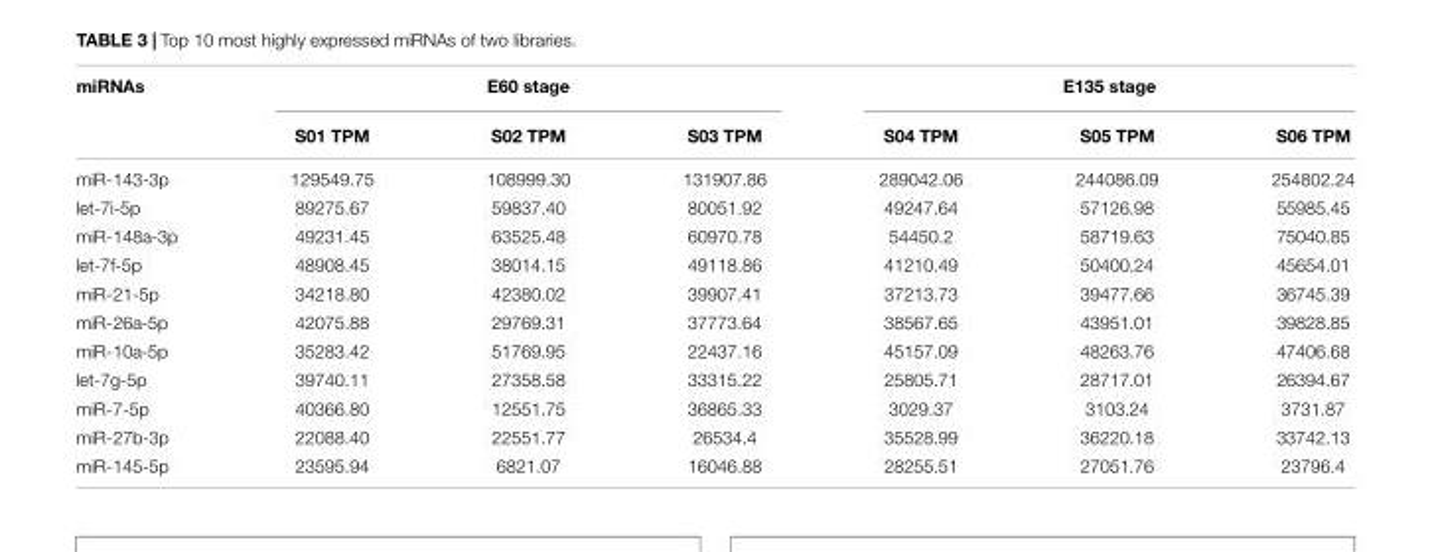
<table><thead><tr><td rowspan="2">miRNAs</td><td colspan="3">E60 stage</td><td colspan="3">E135 stage</td></tr><tr><td>S01 TPM</td><td>S02 TPM</td><td>S03 TPM</td><td>S04 TPM</td><td>S05 TPM</td><td>S06 TPM</td></tr></thead><tbody><tr><td>miR-143-3p</td><td>129549.75</td><td>108999.30</td><td>131907.86</td><td>289042.06</td><td>244086.09</td><td>254802.24</td></tr><tr><td>let-7i-5p</td><td>89275.67</td><td>59837.40</td><td>80051.92</td><td>49247.64</td><td>57126.98</td><td>55985.45</td></tr><tr><td>miR-148a-3p</td><td>49231.45</td><td>63525.48</td><td>60970.78</td><td>54450.2</td><td>58719.63</td><td>75040.85</td></tr><tr><td>let-7f-5p</td><td>48908.45</td><td>38014.15</td><td>49118.86</td><td>41210.49</td><td>50400.24</td><td>45654.01</td></tr><tr><td>miR-21-5p</td><td>34218.80</td><td>42380.02</td><td>39907.41</td><td>37213.73</td><td>39477.66</td><td>36745.39</td></tr><tr><td>miR-26a-5p</td><td>42075.88</td><td>29769.31</td><td>37773.64</td><td>38567.65</td><td>43951.01</td><td>39828.85</td></tr><tr><td>miR-10a-5p</td><td>35283.42</td><td>51769.95</td><td>22437.16</td><td>45157.09</td><td>48263.76</td><td>47406.68</td></tr><tr><td>let-7g-5p</td><td>39740.11</td><td>27358.58</td><td>33315.22</td><td>25805.71</td><td>28717.01</td><td>26394.67</td></tr><tr><td>miR-7-5p</td><td>40366.80</td><td>12551.75</td><td>36865.33</td><td>3029.37</td><td>3103.24</td><td>3731.87</td></tr><tr><td>miR-27b-3p</td><td>22088.40</td><td>22551.77</td><td>26534.4</td><td>35528.99</td><td>36220.18</td><td>33742.13</td></tr><tr><td>miR-145-5p</td><td>23595.94</td><td>6821.07</td><td>16046.88</td><td>28255.51</td><td>27051.76</td><td>23796.4</td></tr></tbody></table>